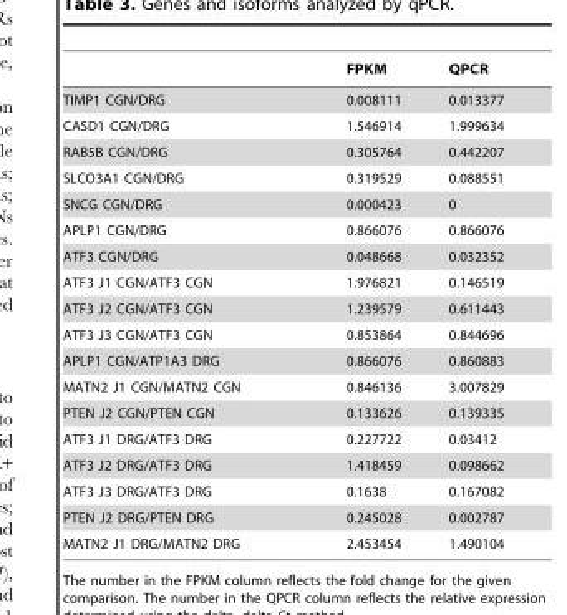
<table><thead><tr><td></td><td>FPKM</td><td>QPCR</td></tr></thead><tbody><tr><td>TIMP1 CGN/DRG</td><td>0.008111</td><td>0.013377</td></tr><tr><td>CASD1 CGN/DRG</td><td>1.546914</td><td>1.999634</td></tr><tr><td>RAB5B CGN/DRG</td><td>0.305764</td><td>0.442207</td></tr><tr><td>SLCO3A1 CGN/DRG</td><td>0.319529</td><td>0.088551</td></tr><tr><td>SNCG CGN/DRG</td><td>0.000423</td><td>0</td></tr><tr><td>APLP1 CGN/DRG</td><td>0.866076</td><td>0.866076</td></tr><tr><td>ATF3 CGN/DRG</td><td>0.048668</td><td>0.032352</td></tr><tr><td>ATF3 J1 CGN/ATF3 CGN</td><td>1.976821</td><td>0.146519</td></tr><tr><td>ATF3 J2 CGN/ATF3 CGN</td><td>1.239579</td><td>0.611443</td></tr><tr><td>ATF3 J3 CGN/ATF3 CGN</td><td>0.853864</td><td>0.844696</td></tr><tr><td>APLP1 CGN/ATP1A3 DRG</td><td>0.866076</td><td>0.860883</td></tr><tr><td>MATN2 J1 CGN/MATN2 CGN</td><td>0.846136</td><td>3.007829</td></tr><tr><td>PTEN J2 CGN/PTEN CGN</td><td>0.133626</td><td>0.139335</td></tr><tr><td>ATF3 J1 DRG/ATF3 DRG</td><td>0.227722</td><td>0.03412</td></tr><tr><td>ATF3 J2 DRG/ATF3 DRG</td><td>1.418459</td><td>0.098662</td></tr><tr><td>ATF3 J3 DRG/ATF3 DRG</td><td>0.1638</td><td>0.167082</td></tr><tr><td>PTEN J2 DRG/PTEN DRG</td><td>0.245028</td><td>0.002787</td></tr><tr><td>MATN2 J1 DRG/MATN2 DRG</td><td>2.453454</td><td>1.490104</td></tr></tbody></table>